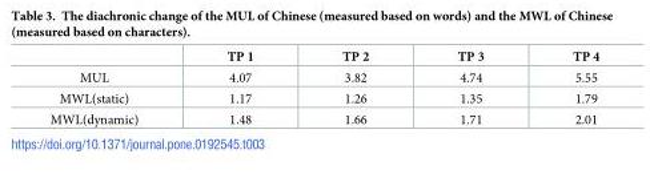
<table><thead><tr><td></td><td>TP 1</td><td>TP 2</td><td>TP 3</td><td>TP 4</td></tr></thead><tbody><tr><td>MUL</td><td>4.07</td><td>3.82</td><td>4.74</td><td>5.55</td></tr><tr><td>MWL(static)</td><td>1.17</td><td>1.26</td><td>1.35</td><td>1.79</td></tr><tr><td>MWL(dynamic)</td><td>1.48</td><td>1.66</td><td>1.71</td><td>2.01</td></tr></tbody></table>